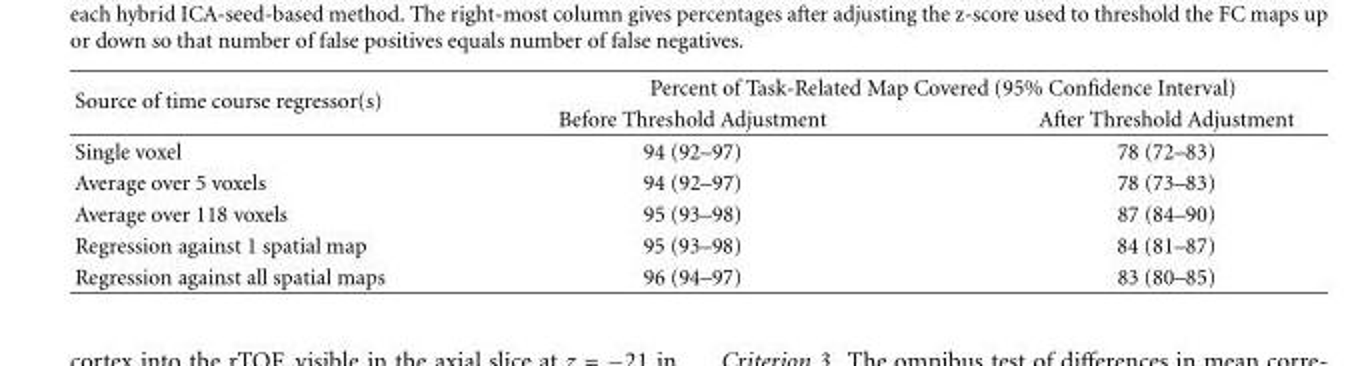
<table><thead><tr><td rowspan="2">Source of time course regressor(s)</td><td colspan="2">Percent of Task-Related Map Covered (95% Confidence Interval)</td></tr><tr><td>Before Threshold Adjustment</td><td>After Threshold Adjustment</td></tr></thead><tbody><tr><td>Single voxel</td><td>94 (92–97)</td><td>78 (72–83)</td></tr><tr><td>Average over 5 voxels</td><td>94 (92–97)</td><td>78 (73–83)</td></tr><tr><td>Average over 118 voxels</td><td>95 (93–98)</td><td>87 (84–90)</td></tr><tr><td>Regression against 1 spatial map</td><td>95 (93–98)</td><td>84 (81–87)</td></tr><tr><td>Regression against all spatial maps</td><td>96 (94–97)</td><td>83 (80–85)</td></tr></tbody></table>